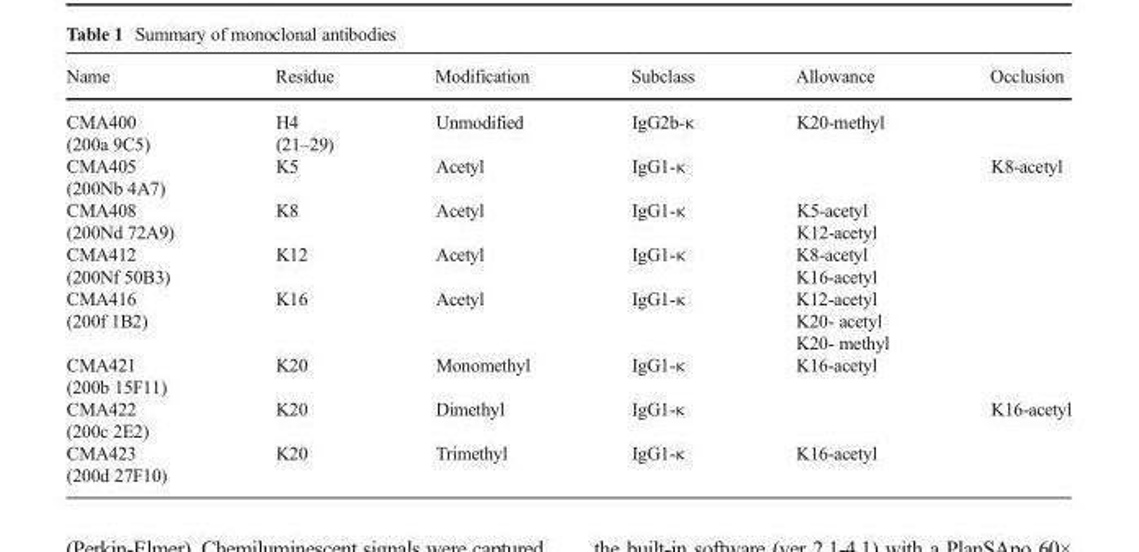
<table><thead><tr><td>Name</td><td>Residue</td><td>Modification</td><td>Subclass</td><td>Allowance</td><td>Occlusion</td></tr></thead><tbody><tr><td>CMA400 (200a 9C5)</td><td>H4 (21–29)</td><td>Unmodified</td><td>IgG2b-κ</td><td>K20-methyl</td><td></td></tr><tr><td>CMA405 (200Nb 4A7)</td><td>K5</td><td>Acetyl</td><td>IgG1-κ</td><td></td><td>K8-acetyl</td></tr><tr><td>CMA408 (200Nd 72A9)</td><td>K8</td><td>Acetyl</td><td>IgG1-κ</td><td>K5-acetyl K12-acetyl</td><td></td></tr><tr><td>CMA412 (200Nf 50B3)</td><td>K12</td><td>Acetyl</td><td>IgG1-κ</td><td>K8-acetyl K16-acetyl</td><td></td></tr><tr><td>CMA416 (200f 1B2)</td><td>K16</td><td>Acetyl</td><td>IgG1-κ</td><td>K12-acetyl K20- acetyl K20- methyl</td><td></td></tr><tr><td>CMA421 (200b 15F11)</td><td>K20</td><td>Monomethyl</td><td>IgG1-κ</td><td>K16-acetyl</td><td></td></tr><tr><td>CMA422 (200c 2E2)</td><td>K20</td><td>Dimethyl</td><td>IgG1-κ</td><td></td><td>K16-acetyl</td></tr><tr><td>CMA423 (200d 27F10)</td><td>K20</td><td>Trimethyl</td><td>IgG1-κ</td><td>K16-acetyl</td><td></td></tr></tbody></table>